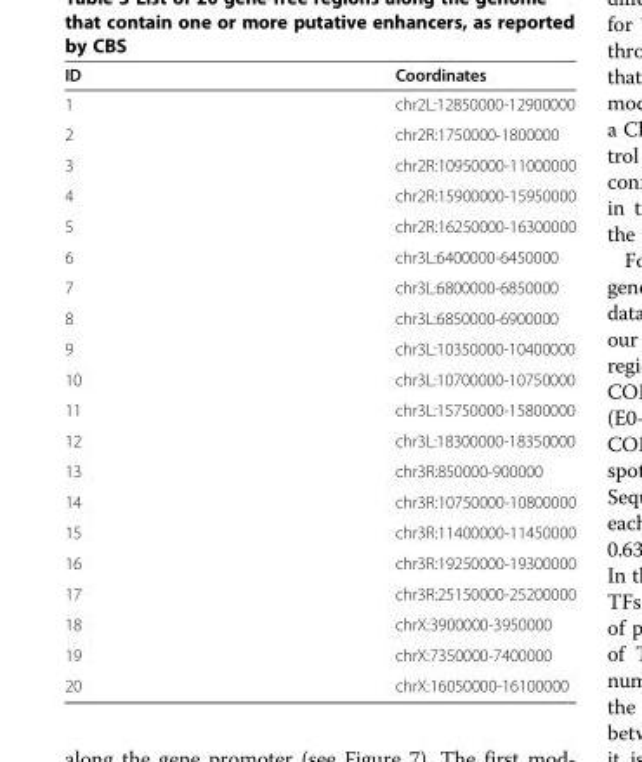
<table><thead><tr><td>ID</td><td>Coordinates</td></tr></thead><tbody><tr><td>1</td><td>chr2L:12850000-12900000</td></tr><tr><td>2</td><td>chr2R:1750000-1800000</td></tr><tr><td>3</td><td>chr2R:10950000-11000000</td></tr><tr><td>4</td><td>chr2R:15900000-15950000</td></tr><tr><td>5</td><td>chr2R:16250000-16300000</td></tr><tr><td>6</td><td>chr3L:6400000-6450000</td></tr><tr><td>7</td><td>chr3L:6800000-6850000</td></tr><tr><td>8</td><td>chr3L:6850000-6900000</td></tr><tr><td>9</td><td>chr3L:10350000-10400000</td></tr><tr><td>10</td><td>chr3L:10700000-10750000</td></tr><tr><td>11</td><td>chr3L:15750000-15800000</td></tr><tr><td>12</td><td>chr3L:18300000-18350000</td></tr><tr><td>13</td><td>chr3R:850000-900000</td></tr><tr><td>14</td><td>chr3R:10750000-10800000</td></tr><tr><td>15</td><td>chr3R:11400000-11450000</td></tr><tr><td>16</td><td>chr3R:19250000-19300000</td></tr><tr><td>17</td><td>chr3R:25150000-25200000</td></tr><tr><td>18</td><td>chrX:3900000-3950000</td></tr><tr><td>19</td><td>chrX:7350000-7400000</td></tr><tr><td>20</td><td>chrX:16050000-16100000</td></tr></tbody></table>